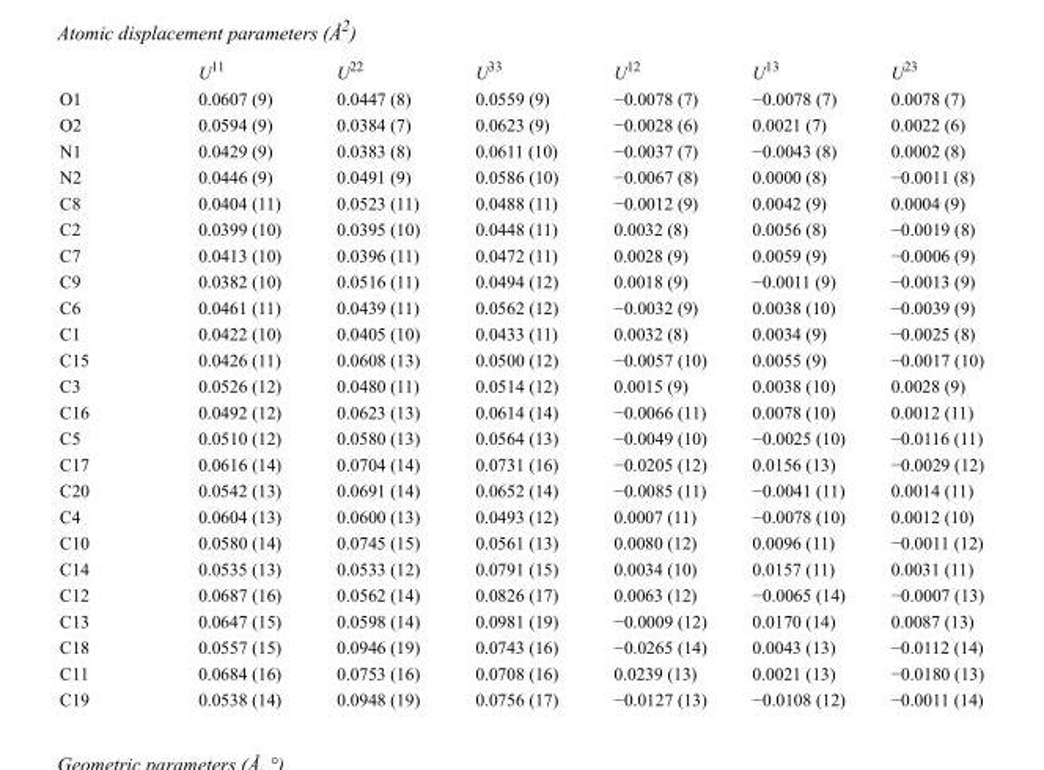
<table><thead><tr><td></td><td>U<sup>11</sup></td><td>U<sup>22</sup></td><td>U<sup>33</sup></td><td>U<sup>12</sup></td><td>U<sup>13</sup></td><td>U<sup>23</sup></td></tr></thead><tbody><tr><td>O1</td><td>0.0607 (9)</td><td>0.0447 (8)</td><td>0.0559 (9)</td><td>−0.0078 (7)</td><td>−0.0078 (7)</td><td>0.0078 (7)</td></tr><tr><td>O2</td><td>0.0594 (9)</td><td>0.0384 (7)</td><td>0.0623 (9)</td><td>−0.0028 (6)</td><td>0.0021 (7)</td><td>0.0022 (6)</td></tr><tr><td>N1</td><td>0.0429 (9)</td><td>0.0383 (8)</td><td>0.0611 (10)</td><td>−0.0037 (7)</td><td>−0.0043 (8)</td><td>0.0002 (8)</td></tr><tr><td>N2</td><td>0.0446 (9)</td><td>0.0491 (9)</td><td>0.0586 (10)</td><td>−0.0067 (8)</td><td>0.0000 (8)</td><td>−0.0011 (8)</td></tr><tr><td>C8</td><td>0.0404 (11)</td><td>0.0523 (11)</td><td>0.0488 (11)</td><td>−0.0012 (9)</td><td>0.0042 (9)</td><td>0.0004 (9)</td></tr><tr><td>C2</td><td>0.0399 (10)</td><td>0.0395 (10)</td><td>0.0448 (11)</td><td>0.0032 (8)</td><td>0.0056 (8)</td><td>−0.0019 (8)</td></tr><tr><td>C7</td><td>0.0413 (10)</td><td>0.0396 (11)</td><td>0.0472 (11)</td><td>0.0028 (9)</td><td>0.0059 (9)</td><td>−0.0006 (9)</td></tr><tr><td>C9</td><td>0.0382 (10)</td><td>0.0516 (11)</td><td>0.0494 (12)</td><td>0.0018 (9)</td><td>−0.0011 (9)</td><td>−0.0013 (9)</td></tr><tr><td>C6</td><td>0.0461 (11)</td><td>0.0439 (11)</td><td>0.0562 (12)</td><td>−0.0032 (9)</td><td>0.0038 (10)</td><td>−0.0039 (9)</td></tr><tr><td>C1</td><td>0.0422 (10)</td><td>0.0405 (10)</td><td>0.0433 (11)</td><td>0.0032 (8)</td><td>0.0034 (9)</td><td>−0.0025 (8)</td></tr><tr><td>C15</td><td>0.0426 (11)</td><td>0.0608 (13)</td><td>0.0500 (12)</td><td>−0.0057 (10)</td><td>0.0055 (9)</td><td>−0.0017 (10)</td></tr><tr><td>C3</td><td>0.0526 (12)</td><td>0.0480 (11)</td><td>0.0514 (12)</td><td>0.0015 (9)</td><td>0.0038 (10)</td><td>0.0028 (9)</td></tr><tr><td>C16</td><td>0.0492 (12)</td><td>0.0623 (13)</td><td>0.0614 (14)</td><td>−0.0066 (11)</td><td>0.0078 (10)</td><td>0.0012 (11)</td></tr><tr><td>C5</td><td>0.0510 (12)</td><td>0.0580 (13)</td><td>0.0564 (13)</td><td>−0.0049 (10)</td><td>−0.0025 (10)</td><td>−0.0116 (11)</td></tr><tr><td>C17</td><td>0.0616 (14)</td><td>0.0704 (14)</td><td>0.0731 (16)</td><td>−0.0205 (12)</td><td>0.0156 (13)</td><td>−0.0029 (12)</td></tr><tr><td>C20</td><td>0.0542 (13)</td><td>0.0691 (14)</td><td>0.0652 (14)</td><td>−0.0085 (11)</td><td>−0.0041 (11)</td><td>0.0014 (11)</td></tr><tr><td>C4</td><td>0.0604 (13)</td><td>0.0600 (13)</td><td>0.0493 (12)</td><td>0.0007 (11)</td><td>−0.0078 (10)</td><td>0.0012 (10)</td></tr><tr><td>C10</td><td>0.0580 (14)</td><td>0.0745 (15)</td><td>0.0561 (13)</td><td>0.0080 (12)</td><td>0.0096 (11)</td><td>−0.0011 (12)</td></tr><tr><td>C14</td><td>0.0535 (13)</td><td>0.0533 (12)</td><td>0.0791 (15)</td><td>0.0034 (10)</td><td>0.0157 (11)</td><td>0.0031 (11)</td></tr><tr><td>C12</td><td>0.0687 (16)</td><td>0.0562 (14)</td><td>0.0826 (17)</td><td>0.0063 (12)</td><td>−0.0065 (14)</td><td>−0.0007 (13)</td></tr><tr><td>C13</td><td>0.0647 (15)</td><td>0.0598 (14)</td><td>0.0981 (19)</td><td>−0.0009 (12)</td><td>0.0170 (14)</td><td>0.0087 (13)</td></tr><tr><td>C18</td><td>0.0557 (15)</td><td>0.0946 (19)</td><td>0.0743 (16)</td><td>−0.0265 (14)</td><td>0.0043 (13)</td><td>−0.0112 (14)</td></tr><tr><td>C11</td><td>0.0684 (16)</td><td>0.0753 (16)</td><td>0.0708 (16)</td><td>0.0239 (13)</td><td>0.0021 (13)</td><td>−0.0180 (13)</td></tr><tr><td>C19</td><td>0.0538 (14)</td><td>0.0948 (19)</td><td>0.0756 (17)</td><td>−0.0127 (13)</td><td>−0.0108 (12)</td><td>−0.0011 (14)</td></tr></tbody></table>